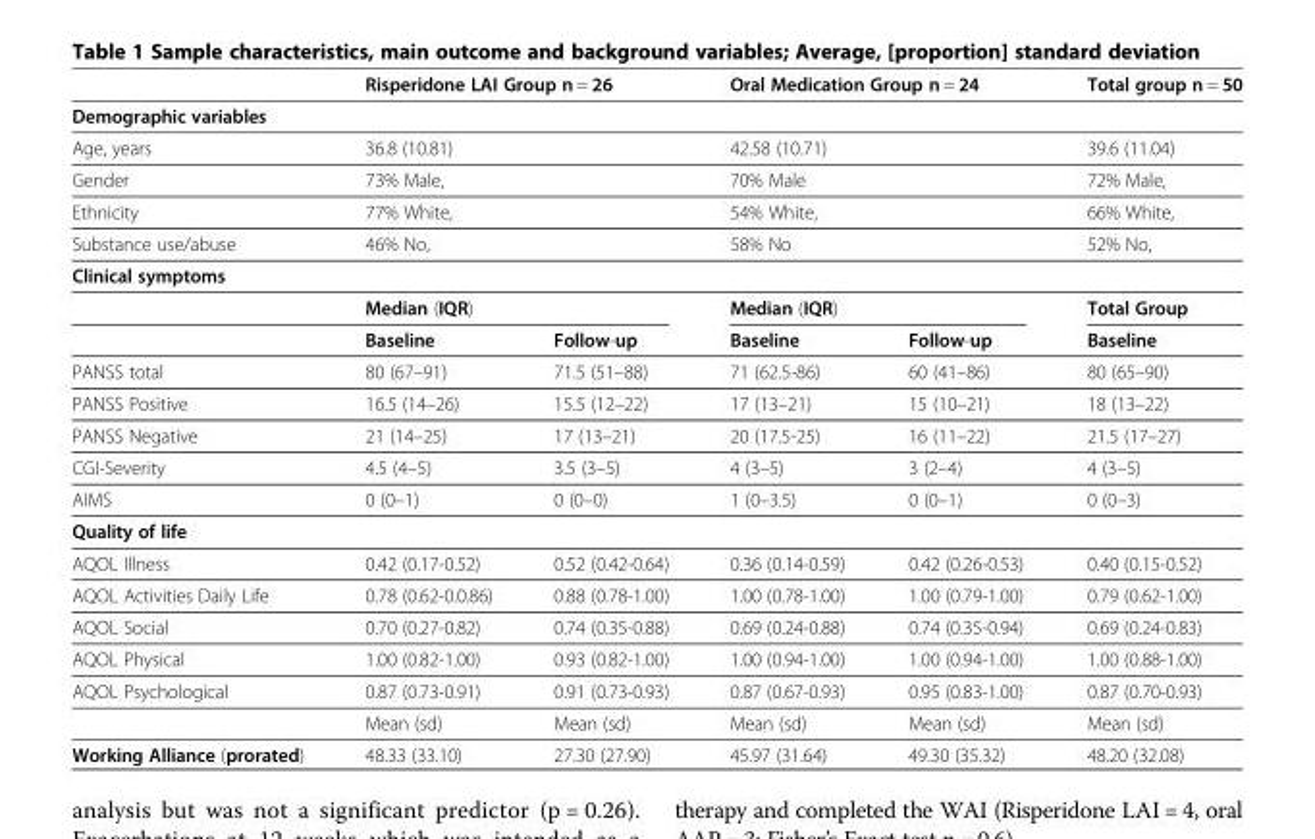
<table><thead><tr><td></td><td colspan="2">Risperidone LAI Group n = 26</td><td colspan="2">Oral Medication Group n = 24</td><td>Total group n = 50</td></tr></thead><tbody><tr><td colspan="6">Demographic variables</td></tr><tr><td>Age, years</td><td colspan="2">36.8 (10.81)</td><td colspan="2">42.58 (10.71)</td><td>39.6 (11.04)</td></tr><tr><td>Gender</td><td colspan="2">73% Male,</td><td colspan="2">70% Male</td><td>72% Male,</td></tr><tr><td>Ethnicity</td><td colspan="2">77% White,</td><td colspan="2">54% White,</td><td>66% White,</td></tr><tr><td>Substance use/abuse</td><td colspan="2">46% No,</td><td colspan="2">58% No</td><td>52% No,</td></tr><tr><td colspan="6">Clinical symptoms</td></tr><tr><td></td><td colspan="2">Median (IQR)</td><td colspan="2">Median (IQR)</td><td>Total Group</td></tr><tr><td></td><td>Baseline</td><td>Follow-up</td><td>Baseline</td><td>Follow-up</td><td>Baseline</td></tr><tr><td>PANSS total</td><td>80 (67–91)</td><td>71.5 (51–88)</td><td>71 (62.5-86)</td><td>60 (41–86)</td><td>80 (65–90)</td></tr><tr><td>PANSS Positive</td><td>16.5 (14–26)</td><td>15.5 (12–22)</td><td>17 (13–21)</td><td>15 (10–21)</td><td>18 (13–22)</td></tr><tr><td>PANSS Negative</td><td>21 (14–25)</td><td>17 (13–21)</td><td>20 (17.5-25)</td><td>16 (11–22)</td><td>21.5 (17–27)</td></tr><tr><td>CGI-Severity</td><td>4.5 (4–5)</td><td>3.5 (3–5)</td><td>4 (3–5)</td><td>3 (2–4)</td><td>4 (3–5)</td></tr><tr><td>AIMS</td><td>0 (0–1)</td><td>0 (0–0)</td><td>1 (0–3.5)</td><td>0 (0–1)</td><td>0 (0–3)</td></tr><tr><td colspan="6">Quality of life</td></tr><tr><td>AQOL Illness</td><td>0.42 (0.17-0.52)</td><td>0.52 (0.42-0.64)</td><td>0.36 (0.14-0.59)</td><td>0.42 (0.26-0.53)</td><td>0.40 (0.15-0.52)</td></tr><tr><td>AQOL Activities Daily Life</td><td>0.78 (0.62-0.0.86)</td><td>0.88 (0.78-1.00)</td><td>1.00 (0.78-1.00)</td><td>1.00 (0.79-1.00)</td><td>0.79 (0.62-1.00)</td></tr><tr><td>AQOL Social</td><td>0.70 (0.27-0.82)</td><td>0.74 (0.35-0.88)</td><td>0.69 (0.24-0.88)</td><td>0.74 (0.35-0.94)</td><td>0.69 (0.24-0.83)</td></tr><tr><td>AQOL Physical</td><td>1.00 (0.82-1.00)</td><td>0.93 (0.82-1.00)</td><td>1.00 (0.94-1.00)</td><td>1.00 (0.94-1.00)</td><td>1.00 (0.88-1.00)</td></tr><tr><td rowspan="2">AQOL Psychological</td><td>0.87 (0.73-0.91)</td><td>0.91 (0.73-0.93)</td><td>0.87 (0.67-0.93)</td><td>0.95 (0.83-1.00)</td><td>0.87 (0.70-0.93)</td></tr><tr><td>Mean (sd)</td><td>Mean (sd)</td><td>Mean (sd)</td><td>Mean (sd)</td><td>Mean (sd)</td></tr><tr><td>Working Alliance (prorated)</td><td>48.33 (33.10)</td><td>27.30 (27.90)</td><td>45.97 (31.64)</td><td>49.30 (35.32)</td><td>48.20 (32.08)</td></tr></tbody></table>